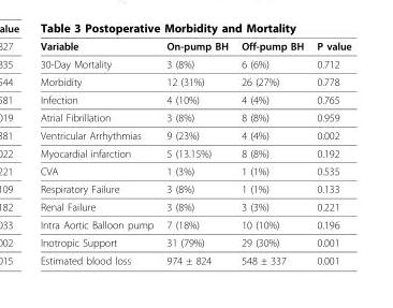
<table><thead><tr><td>Variable</td><td>On-pump BH</td><td>Off-pump BH</td><td>P value</td></tr></thead><tbody><tr><td>30-Day Mortality</td><td>3 (8%)</td><td>6 (6%)</td><td>0.712</td></tr><tr><td>Morbidity</td><td>12 (31%)</td><td>26 (27%)</td><td>0.778</td></tr><tr><td>Infection</td><td>4 (10%)</td><td>4 (4%)</td><td>0.765</td></tr><tr><td>Atrial Fibrillation</td><td>3 (8%)</td><td>8 (8%)</td><td>0.959</td></tr><tr><td>Ventricular Arrhythmias</td><td>9 (23%)</td><td>4 (4%)</td><td>0.002</td></tr><tr><td>Myocardial infarction</td><td>5 (13.15%)</td><td>8 (8%)</td><td>0.192</td></tr><tr><td>CVA</td><td>1 (3%)</td><td>1 (1%)</td><td>0.535</td></tr><tr><td>Respiratory Failure</td><td>3 (8%)</td><td>1 (1%)</td><td>0.133</td></tr><tr><td>Renal Failure</td><td>3 (8%)</td><td>3 (3%)</td><td>0.221</td></tr><tr><td>Intra Aortic Balloon pump</td><td>7 (18%)</td><td>10 (10%)</td><td>0.196</td></tr><tr><td>Inotropic Support</td><td>31 (79%)</td><td>29 (30%)</td><td>0.001</td></tr><tr><td>Estimated blood loss</td><td>974 ± 824</td><td>548 ± 337</td><td>0.001</td></tr></tbody></table>